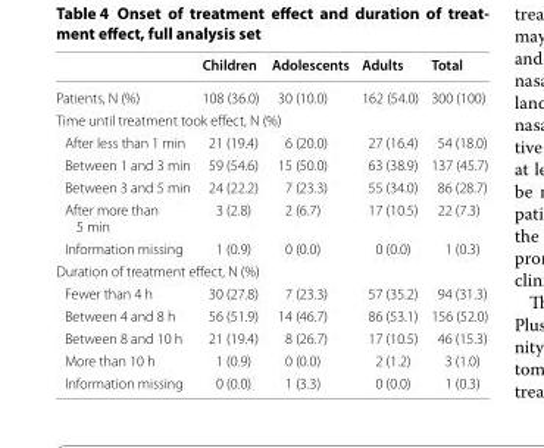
<table><thead><tr><td></td><td>Children</td><td>Adolescents</td><td>Adults</td><td>Total</td></tr></thead><tbody><tr><td>Patients, N (%)</td><td>108 (36.0)</td><td>30 (10.0)</td><td>162 (54.0)</td><td>300 (100)</td></tr><tr><td colspan="5">Time until treatment took effect, N (%)</td></tr><tr><td>After less than 1 min</td><td>21 (19.4)</td><td>6 (20.0)</td><td>27 (16.4)</td><td>54 (18.0)</td></tr><tr><td>Between 1 and 3 min</td><td>59 (54.6)</td><td>15 (50.0)</td><td>63 (38.9)</td><td>137 (45.7)</td></tr><tr><td>Between 3 and 5 min</td><td>24 (22.2)</td><td>7 (23.3)</td><td>55 (34.0)</td><td>86 (28.7)</td></tr><tr><td>After more than 5 min</td><td>3 (2.8)</td><td>2 (6.7)</td><td>17 (10.5)</td><td>22 (7.3)</td></tr><tr><td>Information missing</td><td>1 (0.9)</td><td>0 (0.0)</td><td>0 (0.0)</td><td>1 (0.3)</td></tr><tr><td colspan="5">Duration of treatment effect, N (%)</td></tr><tr><td>Fewer than 4 h</td><td>30 (27.8)</td><td>7 (23.3)</td><td>57 (35.2)</td><td>94 (31.3)</td></tr><tr><td>Between 4 and 8 h</td><td>56 (51.9)</td><td>14 (46.7)</td><td>86 (53.1)</td><td>156 (52.0)</td></tr><tr><td>Between 8 and 10 h</td><td>21 (19.4)</td><td>8 (26.7)</td><td>17 (10.5)</td><td>46 (15.3)</td></tr><tr><td>More than 10 h</td><td>1 (0.9)</td><td>0 (0.0)</td><td>2 (1.2)</td><td>3 (1.0)</td></tr><tr><td>Information missing</td><td>0 (0.0)</td><td>1 (3.3)</td><td>0 (0.0)</td><td>1 (0.3)</td></tr></tbody></table>